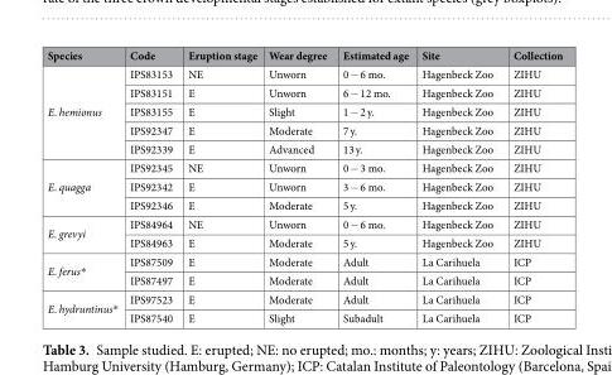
<table><thead><tr><td>Species</td><td>Code</td><td>Eruption stage</td><td>Wear degree</td><td>Estimated age</td><td>Site</td><td>Collection</td></tr></thead><tbody><tr><td rowspan="5">E. hemionus</td><td>IPS83153</td><td>NE</td><td>Unworn</td><td>0 − 6 mo.</td><td>Hagenbeck Zoo</td><td>ZIHU</td></tr><tr><td>IPS83151</td><td>E</td><td>Unworn</td><td>6 − 12 mo.</td><td>Hagenbeck Zoo</td><td>ZIHU</td></tr><tr><td>IPS83155</td><td>E</td><td>Slight</td><td>1 − 2 y.</td><td>Hagenbeck Zoo</td><td>ZIHU</td></tr><tr><td>IPS92347</td><td>E</td><td>Moderate</td><td>7 y.</td><td>Hagenbeck Zoo</td><td>ZIHU</td></tr><tr><td>IPS92339</td><td>E</td><td>Advanced</td><td>13 y.</td><td>Hagenbeck Zoo</td><td>ZIHU</td></tr><tr><td rowspan="3">E. quagga</td><td>IPS92345</td><td>NE</td><td>Unworn</td><td>0 − 3 mo.</td><td>Hagenbeck Zoo</td><td>ZIHU</td></tr><tr><td>IPS92342</td><td>E</td><td>Unworn</td><td>3 − 6 mo.</td><td>Hagenbeck Zoo</td><td>ZIHU</td></tr><tr><td>IPS92346</td><td>E</td><td>Moderate</td><td>5 y.</td><td>Hagenbeck Zoo</td><td>ZIHU</td></tr><tr><td rowspan="2">E. grevyi</td><td>IPS84964</td><td>NE</td><td>Unworn</td><td>0 − 6 mo.</td><td>Hagenbeck Zoo</td><td>ZIHU</td></tr><tr><td>IPS84963</td><td>E</td><td>Moderate</td><td>5 y.</td><td>Hagenbeck Zoo</td><td>ZIHU</td></tr><tr><td rowspan="2">E. ferus*</td><td>IPS87509</td><td>E</td><td>Moderate</td><td>Adult</td><td>La Carihuela</td><td>ICP</td></tr><tr><td>IPS87497</td><td>E</td><td>Moderate</td><td>Adult</td><td>La Carihuela</td><td>ICP</td></tr><tr><td rowspan="2">E. hydruntinus*</td><td>IPS97523</td><td>E</td><td>Moderate</td><td>Adult</td><td>La Carihuela</td><td>ICP</td></tr><tr><td>IPS87540</td><td>E</td><td>Slight</td><td>Subadult</td><td>La Carihuela</td><td>ICP</td></tr></tbody></table>